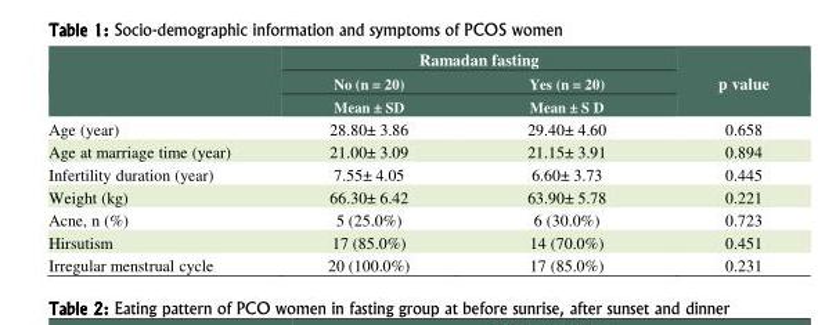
<table><thead><tr><td rowspan="3"></td><td colspan="2">Ramadan fasting</td><td rowspan="3">p value</td></tr><tr><td rowspan="2">No (n = 20) Mean ± SD</td><td rowspan="2">Yes (n = 20) Mean ± S D</td></tr><tr></tr></thead><tbody><tr><td>Age (year)</td><td>28.80± 3.86</td><td>29.40± 4.60</td><td>0.658</td></tr><tr><td>Age at marriage time (year)</td><td>21.00± 3.09</td><td>21.15± 3.91</td><td>0.894</td></tr><tr><td>Infertility duration (year)</td><td>7.55± 4.05</td><td>6.60± 3.73</td><td>0.445</td></tr><tr><td>Weight (kg)</td><td>66.30± 6.42</td><td>63.90± 5.78</td><td>0.221</td></tr><tr><td>Acne, n (%)</td><td>5 (25.0%)</td><td>6 (30.0%)</td><td>0.723</td></tr><tr><td>Hirsutism</td><td>17 (85.0%)</td><td>14 (70.0%)</td><td>0.451</td></tr><tr><td>Irregular menstrual cycle</td><td>20 (100.0%)</td><td>17 (85.0%)</td><td>0.231</td></tr></tbody></table>